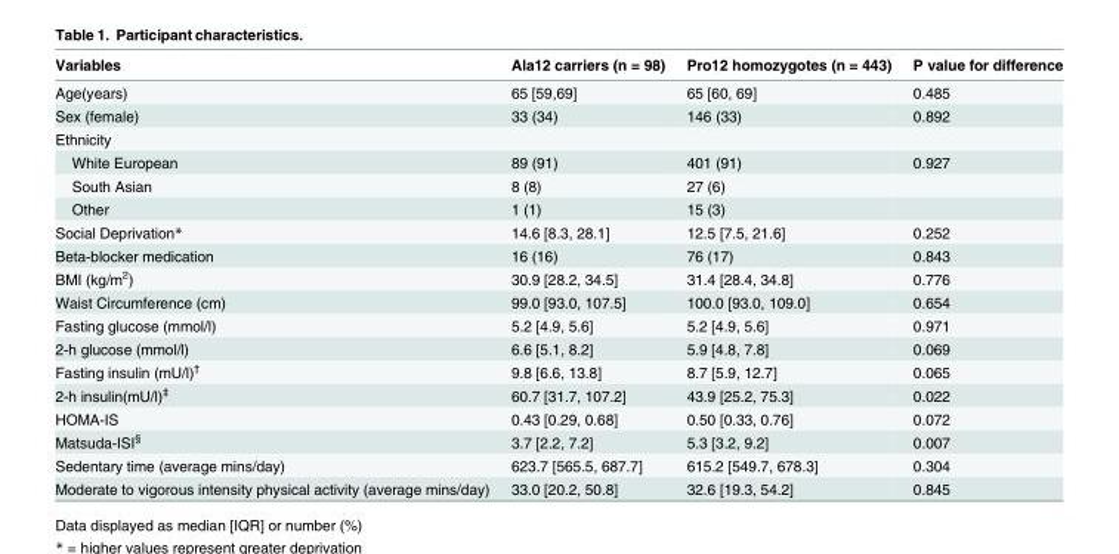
<table><thead><tr><td>Variables</td><td>Ala12 carriers (n = 98)</td><td>Pro12 homozygotes (n = 443)</td><td>P value for difference</td></tr></thead><tbody><tr><td>Age(years)</td><td>65 [59,69]</td><td>65 [60, 69]</td><td>0.485</td></tr><tr><td>Sex (female)</td><td>33 (34)</td><td>146 (33)</td><td>0.892</td></tr><tr><td colspan="4">Ethnicity</td></tr><tr><td>White European</td><td>89 (91)</td><td>401 (91)</td><td>0.927</td></tr><tr><td>South Asian</td><td>8 (8)</td><td>27 (6)</td><td></td></tr><tr><td>Other</td><td>1 (1)</td><td>15 (3)</td><td></td></tr><tr><td>Social Deprivation*</td><td>14.6 [8.3, 28.1]</td><td>12.5 [7.5, 21.6]</td><td>0.252</td></tr><tr><td>Beta-blocker medication</td><td>16 (16)</td><td>76 (17)</td><td>0.843</td></tr><tr><td>BMI (kg/m<sup>2</sup>)</td><td>30.9 [28.2, 34.5]</td><td>31.4 [28.4, 34.8]</td><td>0.776</td></tr><tr><td>Waist Circumference (cm)</td><td>99.0 [93.0, 107.5]</td><td>100.0 [93.0, 109.0]</td><td>0.654</td></tr><tr><td>Fasting glucose (mmol/l)</td><td>5.2 [4.9, 5.6]</td><td>5.2 [4.9, 5.6]</td><td>0.971</td></tr><tr><td>2-h glucose (mmol/l)</td><td>6.6 [5.1, 8.2]</td><td>5.9 [4.8, 7.8]</td><td>0.069</td></tr><tr><td>Fasting insulin (mU/l)<sup>†</sup></td><td>9.8 [6.6, 13.8]</td><td>8.7 [5.9, 12.7]</td><td>0.065</td></tr><tr><td>2-h insulin(mU/l)<sup>‡</sup></td><td>60.7 [31.7, 107.2]</td><td>43.9 [25.2, 75.3]</td><td>0.022</td></tr><tr><td>HOMA-IS</td><td>0.43 [0.29, 0.68]</td><td>0.50 [0.33, 0.76]</td><td>0.072</td></tr><tr><td>Matsuda-ISI<sup>§</sup></td><td>3.7 [2.2, 7.2]</td><td>5.3 [3.2, 9.2]</td><td>0.007</td></tr><tr><td>Sedentary time (average mins/day)</td><td>623.7 [565.5, 687.7]</td><td>615.2 [549.7, 678.3]</td><td>0.304</td></tr><tr><td>Moderate to vigorous intensity physical activity (average mins/day)</td><td>33.0 [20.2, 50.8]</td><td>32.6 [19.3, 54.2]</td><td>0.845</td></tr></tbody></table>